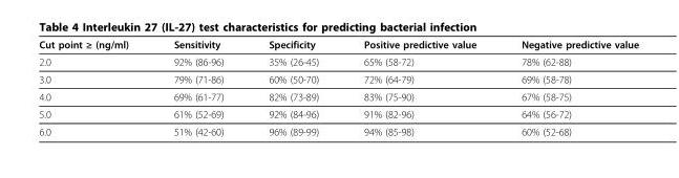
<table><thead><tr><td>Cut point ≥ (ng/ml)</td><td>Sensitivity</td><td>Specificity</td><td>Positive predictive value</td><td>Negative predictive value</td></tr></thead><tbody><tr><td>2.0</td><td>92% (86-96)</td><td>35% (26-45)</td><td>65% (58-72)</td><td>78% (62-88)</td></tr><tr><td>3.0</td><td>79% (71-86)</td><td>60% (50-70)</td><td>72% (64-79)</td><td>69% (58-78)</td></tr><tr><td>4.0</td><td>69% (61-77)</td><td>82% (73-89)</td><td>83% (75-90)</td><td>67% (58-75)</td></tr><tr><td>5.0</td><td>61% (52-69)</td><td>92% (84-96)</td><td>91% (82-96)</td><td>64% (56-72)</td></tr><tr><td>6.0</td><td>51% (42-60)</td><td>96% (89-99)</td><td>94% (85-98)</td><td>60% (52-68)</td></tr></tbody></table>